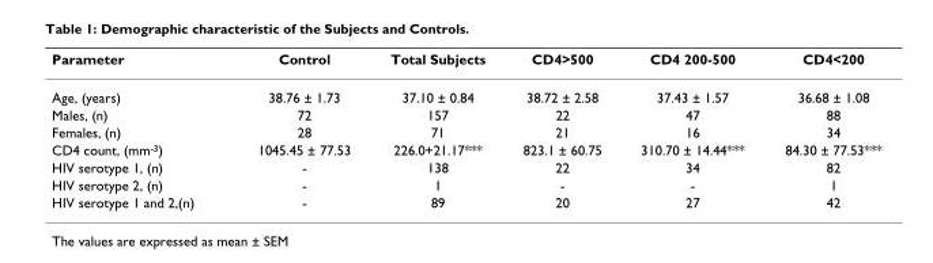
<table><thead><tr><td>Parameter</td><td>Control</td><td>Total Subjects</td><td>CD4&gt;500</td><td>CD4 200-500</td><td>CD4&lt;200</td></tr></thead><tbody><tr><td>Age, (years)</td><td>38.76 ± 1.73</td><td>37.10 ± 0.84</td><td>38.72 ± 2.58</td><td>37.43 ± 1.57</td><td>36.68 ± 1.08</td></tr><tr><td>Males, (n)</td><td>72</td><td>157</td><td>22</td><td>47</td><td>88</td></tr><tr><td>Females, (n)</td><td>28</td><td>71</td><td>21</td><td>16</td><td>34</td></tr><tr><td>CD4 count, (mm<sup>-3</sup>)</td><td>1045.45 ± 77.53</td><td>226.0+21.17***</td><td>823.1 ± 60.75</td><td>310.70 ± 14.44***</td><td>84.30 ± 77.53***</td></tr><tr><td>HIV serotype 1, (n)</td><td>-</td><td>138</td><td>22</td><td>34</td><td>82</td></tr><tr><td>HIV serotype 2, (n)</td><td>-</td><td>1</td><td>-</td><td>-</td><td>1</td></tr><tr><td>HIV serotype 1 and 2,(n)</td><td>-</td><td>89</td><td>20</td><td>27</td><td>42</td></tr></tbody></table>